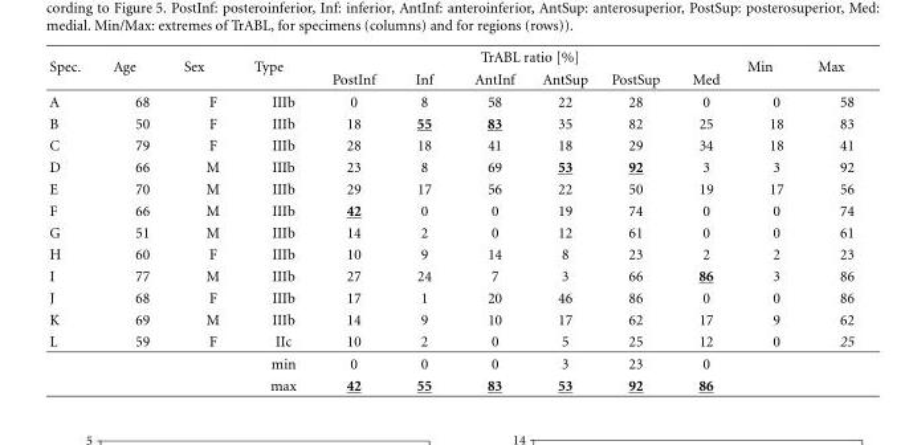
<table><thead><tr><td rowspan="2">Spec.</td><td rowspan="2">Age</td><td rowspan="2">Sex</td><td rowspan="2">Type</td><td colspan="6">TrABL ratio [%]</td><td rowspan="2">Min</td><td rowspan="2">Max</td></tr><tr><td>PostInf</td><td>Inf</td><td>AntInf</td><td>AntSup</td><td>PostSup</td><td>Med</td></tr></thead><tbody><tr><td>A</td><td>68</td><td>F</td><td>IIIb</td><td>0</td><td>8</td><td>58</td><td>22</td><td>28</td><td>0</td><td>0</td><td>58</td></tr><tr><td>B</td><td>50</td><td>F</td><td>IIIb</td><td>18</td><td>55</td><td>83</td><td>35</td><td>82</td><td>25</td><td>18</td><td>83</td></tr><tr><td>C</td><td>79</td><td>F</td><td>IIIb</td><td>28</td><td>18</td><td>41</td><td>18</td><td>29</td><td>34</td><td>18</td><td>41</td></tr><tr><td>D</td><td>66</td><td>M</td><td>IIIb</td><td>23</td><td>8</td><td>69</td><td>53</td><td>92</td><td>3</td><td>3</td><td>92</td></tr><tr><td>E</td><td>70</td><td>M</td><td>IIIb</td><td>29</td><td>17</td><td>56</td><td>22</td><td>50</td><td>19</td><td>17</td><td>56</td></tr><tr><td>F</td><td>66</td><td>M</td><td>IIIb</td><td>42</td><td>0</td><td>0</td><td>19</td><td>74</td><td>0</td><td>0</td><td>74</td></tr><tr><td>G</td><td>51</td><td>M</td><td>IIIb</td><td>14</td><td>2</td><td>0</td><td>12</td><td>61</td><td>0</td><td>0</td><td>61</td></tr><tr><td>H</td><td>60</td><td>F</td><td>IIIb</td><td>10</td><td>9</td><td>14</td><td>8</td><td>23</td><td>2</td><td>2</td><td>23</td></tr><tr><td>I</td><td>77</td><td>M</td><td>IIIb</td><td>27</td><td>24</td><td>7</td><td>3</td><td>66</td><td>86</td><td>3</td><td>86</td></tr><tr><td>J</td><td>68</td><td>F</td><td>IIIb</td><td>17</td><td>1</td><td>20</td><td>46</td><td>86</td><td>0</td><td>0</td><td>86</td></tr><tr><td>K</td><td>69</td><td>M</td><td>IIIb</td><td>14</td><td>9</td><td>10</td><td>17</td><td>62</td><td>17</td><td>9</td><td>62</td></tr><tr><td rowspan="3">L</td><td>59</td><td>F</td><td>IIc</td><td>10</td><td>2</td><td>0</td><td>5</td><td>25</td><td>12</td><td>0</td><td>25</td></tr><tr><td></td><td></td><td>min</td><td>0</td><td>0</td><td>0</td><td>3</td><td>23</td><td>0</td><td></td><td></td></tr><tr><td></td><td></td><td>max</td><td>42</td><td>55</td><td>83</td><td>53</td><td>92</td><td>86</td><td></td><td></td></tr></tbody></table>